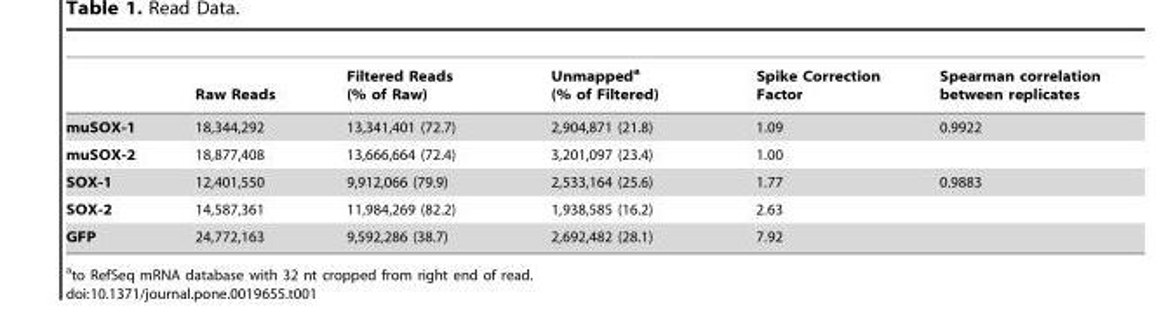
<table><thead><tr><td></td><td>Raw Reads</td><td>Filtered Reads (% of Raw)</td><td>Unmapped<sup>a</sup> (% of Filtered)</td><td>Spike Correction Factor</td><td>Spearman correlation between replicates</td></tr></thead><tbody><tr><td>muSOX-1</td><td>18,344,292</td><td>13,341,401 (72.7)</td><td>2,904,871 (21.8)</td><td>1.09</td><td>0.9922</td></tr><tr><td>muSOX-2</td><td>18,877,408</td><td>13,666,664 (72.4)</td><td>3,201,097 (23.4)</td><td>1.00</td><td></td></tr><tr><td>SOX-1</td><td>12,401,550</td><td>9,912,066 (79.9)</td><td>2,533,164 (25.6)</td><td>1.77</td><td>0.9883</td></tr><tr><td>SOX-2</td><td>14,587,361</td><td>11,984,269 (82.2)</td><td>1,938,585 (16.2)</td><td>2.63</td><td></td></tr><tr><td>GFP</td><td>24,772,163</td><td>9,592,286 (38.7)</td><td>2,692,482 (28.1)</td><td>7.92</td><td></td></tr></tbody></table>